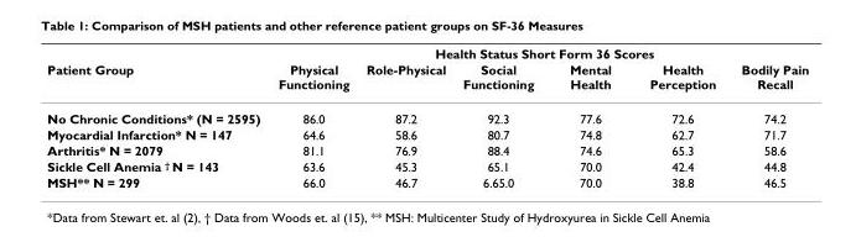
<table><thead><tr><td rowspan="2">Patient Group</td><td colspan="6">Health Status Short Form 36 Scores</td></tr><tr><td>Physical Functioning</td><td>Role-Physical</td><td>Social Functioning</td><td>Mental Health</td><td>Health Perception</td><td>Bodily Pain Recall</td></tr></thead><tbody><tr><td>No Chronic Conditions* (N = 2595)</td><td>86.0</td><td>87.2</td><td>92.3</td><td>77.6</td><td>72.6</td><td>74.2</td></tr><tr><td>Myocardial Infarction* N = 147</td><td>64.6</td><td>58.6</td><td>80.7</td><td>74.8</td><td>62.7</td><td>71.7</td></tr><tr><td>Arthritis* N = 2079</td><td>81.1</td><td>76.9</td><td>88.4</td><td>74.6</td><td>65.3</td><td>58.6</td></tr><tr><td>Sickle Cell Anemia † N = 143</td><td>63.6</td><td>45.3</td><td>65.1</td><td>70.0</td><td>42.4</td><td>44.8</td></tr><tr><td>MSH** N = 299</td><td>66.0</td><td>46.7</td><td>6.65.0</td><td>70.0</td><td>38.8</td><td>46.5</td></tr></tbody></table>